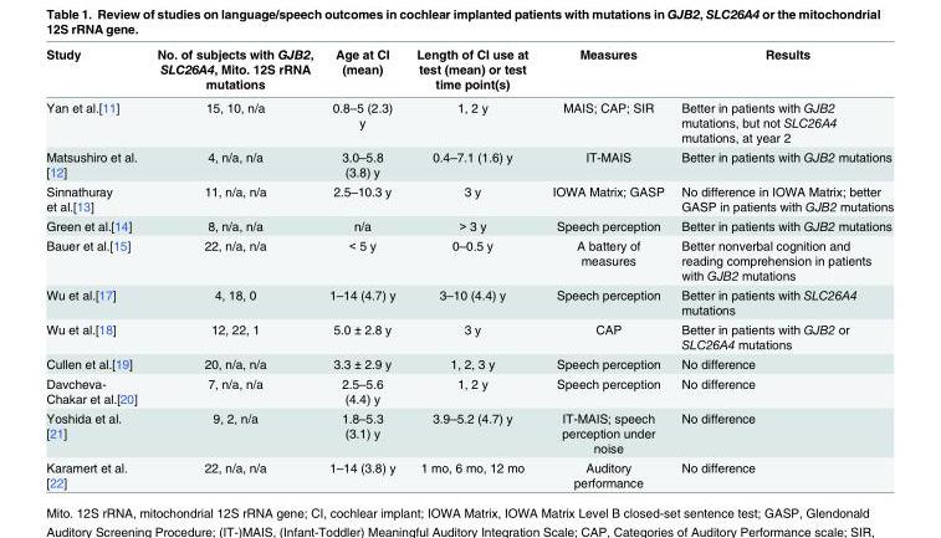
<table><thead><tr><td>Study</td><td>No. of subjects with GJB2, SLC26A4, Mito. 12S rRNA mutations</td><td>Age at CI (mean)</td><td>Length of CI use at test (mean) or test time point(s)</td><td>Measures</td><td>Results</td></tr></thead><tbody><tr><td>Yan et al.[11]</td><td>15, 10, n/a</td><td>0.8–5 (2.3) y</td><td>1, 2 y</td><td>MAIS; CAP; SIR</td><td>Better in patients with GJB2 mutations, but not SLC26A4 mutations, at year 2</td></tr><tr><td>Matsushiro et al. [12]</td><td>4, n/a, n/a</td><td>3.0–5.8 (3.8) y</td><td>0.4–7.1 (1.6) y</td><td>IT-MAIS</td><td>Better in patients with GJB2 mutations</td></tr><tr><td>Sinnathuray et al.[13]</td><td>11, n/a, n/a</td><td>2.5–10.3 y</td><td>3 y</td><td>IOWA Matrix; GASP</td><td>No difference in IOWA Matrix; better GASP in patients with GJB2 mutations</td></tr><tr><td>Green et al.[14]</td><td>8, n/a, n/a</td><td>n/a</td><td>&gt; 3 y</td><td>Speech perception</td><td>Better in patients with GJB2 mutations</td></tr><tr><td>Bauer et al.[15]</td><td>22, n/a, n/a</td><td>&lt; 5 y</td><td>0–0.5 y</td><td>A battery of measures</td><td>Better nonverbal cognition and reading comprehension in patients with GJB2 mutations</td></tr><tr><td>Wu et al.[17]</td><td>4, 18, 0</td><td>1–14 (4.7) y</td><td>3–10 (4.4) y</td><td>Speech perception</td><td>Better in patients with SLC26A4 mutations</td></tr><tr><td>Wu et al.[18]</td><td>12, 22, 1</td><td>5.0 ± 2.8 y</td><td>3 y</td><td>CAP</td><td>Better in patients with GJB2 or SLC26A4 mutations</td></tr><tr><td>Cullen et al.[19]</td><td>20, n/a, n/a</td><td>3.3 ± 2.9 y</td><td>1, 2, 3 y</td><td>Speech perception</td><td>No difference</td></tr><tr><td>Davcheva- Chakar et al.[20]</td><td>7, n/a, n/a</td><td>2.5–5.6 (4.4) y</td><td>1, 2 y</td><td>Speech perception</td><td>No difference</td></tr><tr><td>Yoshida et al. [21]</td><td>9, 2, n/a</td><td>1.8–5.3 (3.1) y</td><td>3.9–5.2 (4.7) y</td><td>IT-MAIS; speech perception under noise</td><td>No difference</td></tr><tr><td>Karamert et al. [22]</td><td>22, n/a, n/a</td><td>1–14 (3.8) y</td><td>1 mo, 6 mo, 12 mo</td><td>Auditory performance</td><td>No difference</td></tr></tbody></table>